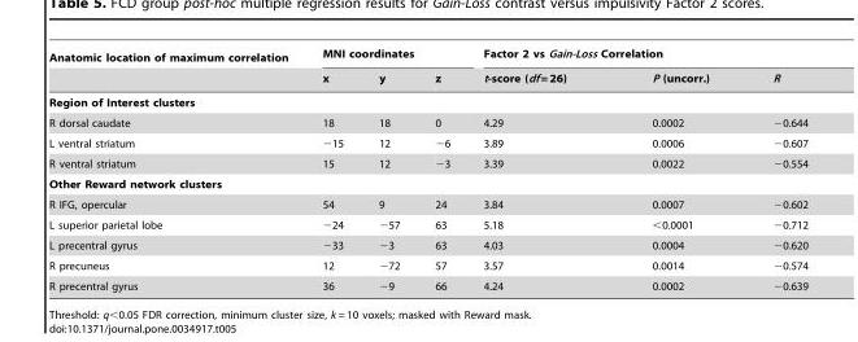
<table><thead><tr><td rowspan="2">Anatomic location of maximum correlation</td><td colspan="3">MNI coordinates</td><td colspan="3">Factor 2 vs Gain-Loss Correlation</td></tr><tr><td>x</td><td>y</td><td>z</td><td>t-score (df = 26)</td><td>P (uncorr.)</td><td>R</td></tr></thead><tbody><tr><td colspan="7">Region of Interest clusters</td></tr><tr><td>R dorsal caudate</td><td>18</td><td>18</td><td>0</td><td>4.29</td><td>0.0002</td><td>−0.644</td></tr><tr><td>L ventral striatum</td><td>−15</td><td>12</td><td>−6</td><td>3.89</td><td>0.0006</td><td>−0.607</td></tr><tr><td>R ventral striatum</td><td>15</td><td>12</td><td>−3</td><td>3.39</td><td>0.0022</td><td>−0.554</td></tr><tr><td colspan="7">Other Reward network clusters</td></tr><tr><td>R IFG, opercular</td><td>54</td><td>9</td><td>24</td><td>3.84</td><td>0.0007</td><td>−0.602</td></tr><tr><td>L superior parietal lobe</td><td>−24</td><td>−57</td><td>63</td><td>5.18</td><td>&lt;0.0001</td><td>−0.712</td></tr><tr><td>L precentral gyrus</td><td>−33</td><td>−3</td><td>63</td><td>4.03</td><td>0.0004</td><td>−0.620</td></tr><tr><td>R precuneus</td><td>12</td><td>−72</td><td>57</td><td>3.57</td><td>0.0014</td><td>−0.574</td></tr><tr><td>R precentral gyrus</td><td>36</td><td>−9</td><td>66</td><td>4.24</td><td>0.0002</td><td>−0.639</td></tr></tbody></table>